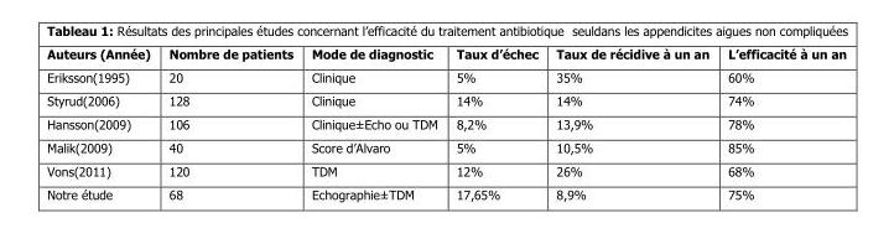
<table><thead><tr><td>Auteurs (Année)</td><td>Nombre de patients</td><td>Mode de diagnostic</td><td>Taux d’échec</td><td>Taux de récidive à un an</td><td>L’efficacité à un an</td></tr></thead><tbody><tr><td>Eriksson(1995)</td><td>20</td><td>Clinique</td><td>5%</td><td>35%</td><td>60%</td></tr><tr><td>Styrud(2006)</td><td>128</td><td>Clinique</td><td>14%</td><td>14%</td><td>74%</td></tr><tr><td>Hansson(2009)</td><td>106</td><td>Clinique±Echo ou TDM</td><td>8,2%</td><td>13,9%</td><td>78%</td></tr><tr><td>Malik(2009)</td><td>40</td><td>Score d’Alvaro</td><td>5%</td><td>10,5%</td><td>85%</td></tr><tr><td>Vons(2011)</td><td>120</td><td>TDM</td><td>12%</td><td>26%</td><td>68%</td></tr><tr><td>Notre étude</td><td>68</td><td>Echographie±TDM</td><td>17,65%</td><td>8,9%</td><td>75%</td></tr></tbody></table>